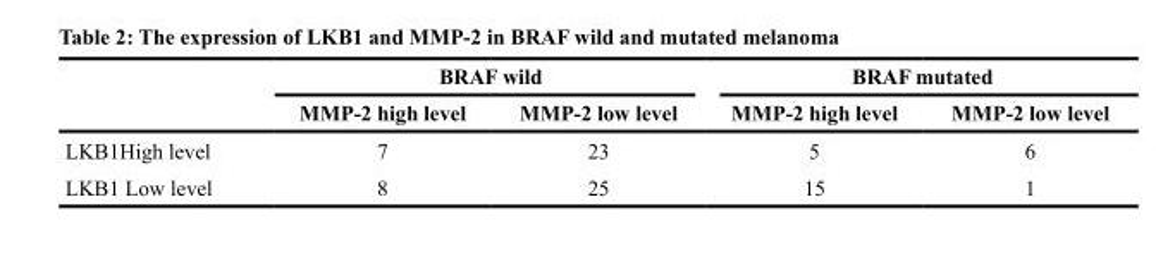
<table><thead><tr><td rowspan="2"></td><td colspan="2">BRAF wild</td><td colspan="2">BRAF mutated</td></tr><tr><td>MMP-2 high level</td><td>MMP-2 low level</td><td>MMP-2 high level</td><td>MMP-2 low level</td></tr></thead><tbody><tr><td>LKB1High level</td><td>7</td><td>23</td><td>5</td><td>6</td></tr><tr><td>LKB1 Low level</td><td>8</td><td>25</td><td>15</td><td>1</td></tr></tbody></table>